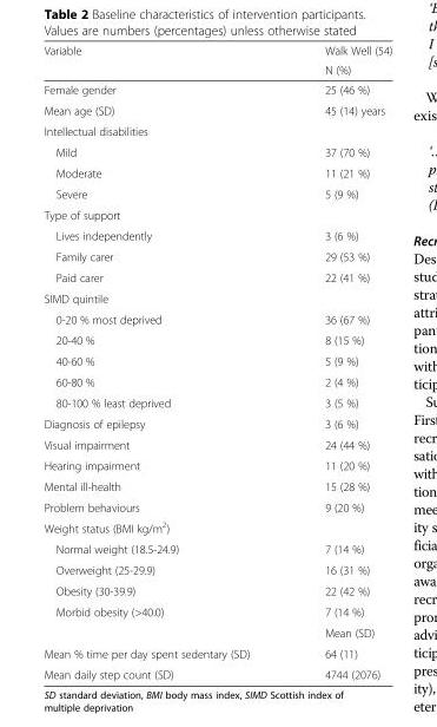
<table><thead><tr><td rowspan="2">Variable</td><td rowspan="2">Walk Well (54) N (%)</td></tr><tr></tr></thead><tbody><tr><td>Female gender</td><td>25 (46 %)</td></tr><tr><td>Mean age (SD)</td><td>45 (14) years</td></tr><tr><td colspan="2">Intellectual disabilities</td></tr><tr><td>Mild</td><td>37 (70 %)</td></tr><tr><td>Moderate</td><td>11 (21 %)</td></tr><tr><td>Severe</td><td>5 (9 %)</td></tr><tr><td colspan="2">Type of support</td></tr><tr><td>Lives independently</td><td>3 (6 %)</td></tr><tr><td>Family carer</td><td>29 (53 %)</td></tr><tr><td>Paid carer</td><td>22 (41 %)</td></tr><tr><td colspan="2">SIMD quintile</td></tr><tr><td>0-20 % most deprived</td><td>36 (67 %)</td></tr><tr><td>20-40 %</td><td>8 (15 %)</td></tr><tr><td>40-60 %</td><td>5 (9 %)</td></tr><tr><td>60-80 %</td><td>2 (4 %)</td></tr><tr><td>80-100 % least deprived</td><td>3 (5 %)</td></tr><tr><td>Diagnosis of epilepsy</td><td>3 (6 %)</td></tr><tr><td>Visual impairment</td><td>24 (44 %)</td></tr><tr><td>Hearing impairment</td><td>11 (20 %)</td></tr><tr><td>Mental ill-health</td><td>15 (28 %)</td></tr><tr><td>Problem behaviours</td><td>9 (20 %)</td></tr><tr><td colspan="2">Weight status (BMI kg/m<sup>2</sup>)</td></tr><tr><td>Normal weight (18.5-24.9)</td><td>7 (14 %)</td></tr><tr><td>Overweight (25-29.9)</td><td>16 (31 %)</td></tr><tr><td>Obesity (30-39.9)</td><td>22 (42 %)</td></tr><tr><td rowspan="2">Morbid obesity (&gt;40.0)</td><td>7 (14 %)</td></tr><tr><td>Mean (SD)</td></tr><tr><td>Mean % time per day spent sedentary (SD)</td><td>64 (11)</td></tr><tr><td>Mean daily step count (SD)</td><td>4744 (2076)</td></tr></tbody></table>